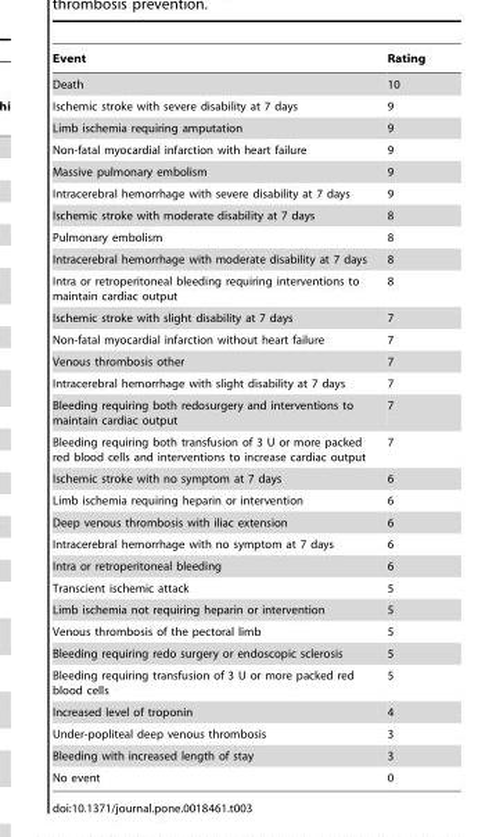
<table><thead><tr><td>Event</td><td>Rating</td></tr></thead><tbody><tr><td>Death</td><td>10</td></tr><tr><td>Ischemic stroke with severe disability at 7 days</td><td>9</td></tr><tr><td>Limb ischemia requiring amputation</td><td>9</td></tr><tr><td>Non-fatal myocardial infarction with heart failure</td><td>9</td></tr><tr><td>Massive pulmonary embolism</td><td>9</td></tr><tr><td>Intracerebral hemorrhage with severe disability at 7 days</td><td>9</td></tr><tr><td>Ischemic stroke with moderate disability at 7 days</td><td>8</td></tr><tr><td>Pulmonary embolism</td><td>8</td></tr><tr><td>Intracerebral hemorrhage with moderate disability at 7 days</td><td>8</td></tr><tr><td>Intra or retroperitoneal bleeding requiring interventions to maintain cardiac output</td><td>8</td></tr><tr><td>Ischemic stroke with slight disability at 7 days</td><td>7</td></tr><tr><td>Non-fatal myocardial infarction without heart failure</td><td>7</td></tr><tr><td>Venous thrombosis other</td><td>7</td></tr><tr><td>Intracerebral hemorrhage with slight disability at 7 days</td><td>7</td></tr><tr><td>Bleeding requiring both redosurgery and interventions to maintain cardiac output</td><td>7</td></tr><tr><td>Bleeding requiring both transfusion of 3 U or more packed red blood cells and interventions to increase cardiac output</td><td>7</td></tr><tr><td>Ischemic stroke with no symptom at 7 days</td><td>6</td></tr><tr><td>Limb ischemia requiring heparin or intervention</td><td>6</td></tr><tr><td>Deep venous thrombosis with iliac extension</td><td>6</td></tr><tr><td>Intracerebral hemorrhage with no symptom at 7 days</td><td>6</td></tr><tr><td>Intra or retroperitoneal bleeding</td><td>6</td></tr><tr><td>Transcient ischemic attack</td><td>5</td></tr><tr><td>Limb ischemia not requiring heparin or intervention</td><td>5</td></tr><tr><td>Venous thrombosis of the pectoral limb</td><td>5</td></tr><tr><td>Bleeding requiring redo surgery or endoscopic sclerosis</td><td>5</td></tr><tr><td>Bleeding requiring transfusion of 3 U or more packed red blood cells</td><td>5</td></tr><tr><td>Increased level of troponin</td><td>4</td></tr><tr><td>Under-popliteal deep venous thrombosis</td><td>3</td></tr><tr><td>Bleeding with increased length of stay</td><td>3</td></tr><tr><td>No event</td><td>0</td></tr></tbody></table>